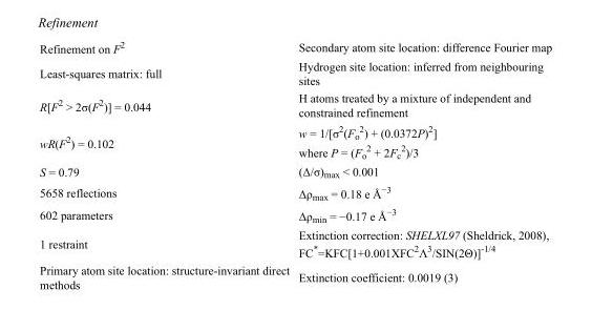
<table><tbody><tr><td>Refinement on F<sup>2</sup></td><td>Secondary atom site location: difference Fourier map</td></tr><tr><td>Least-squares matrix: full</td><td>Hydrogen site location: inferred from neighbouring sites</td></tr><tr><td>R[F<sup>2</sup> &gt; 2σ(F<sup>2</sup>)] = 0.044</td><td>H atoms treated by a mixture of independent and constrained refinement</td></tr><tr><td>wR(F<sup>2</sup>) = 0.102</td><td>w = 1/[σ<sup>2</sup>(F<sub>o</sub> <sup>2</sup>) + (0.0372P)<sup>2</sup>] where P = (F<sub>o</sub> <sup>2</sup> + 2F<sub>c</sub> <sup>2</sup>)/3</td></tr><tr><td>S = 0.79</td><td>(Δ/σ)<sub>max</sub> &lt; 0.001</td></tr><tr><td>5658 reflections</td><td>Δρ<sub>max</sub> = 0.18 e Å<sup>−3</sup></td></tr><tr><td>602 parameters</td><td>Δρ<sub>min</sub> = −0.17 e Å<sup>−3</sup></td></tr><tr><td>1 restraint</td><td>Extinction correction: SHELXL97 (Sheldrick, 2008), FC*=KFC[1+0.001XFC<sup>2</sup>Λ<sup>3</sup>/SIN(2Θ)]<sup>-1/4</sup></td></tr><tr><td>Primary atom site location: structure-invariant direct methods</td><td>Extinction coefficient: 0.0019 (3)</td></tr></tbody></table>